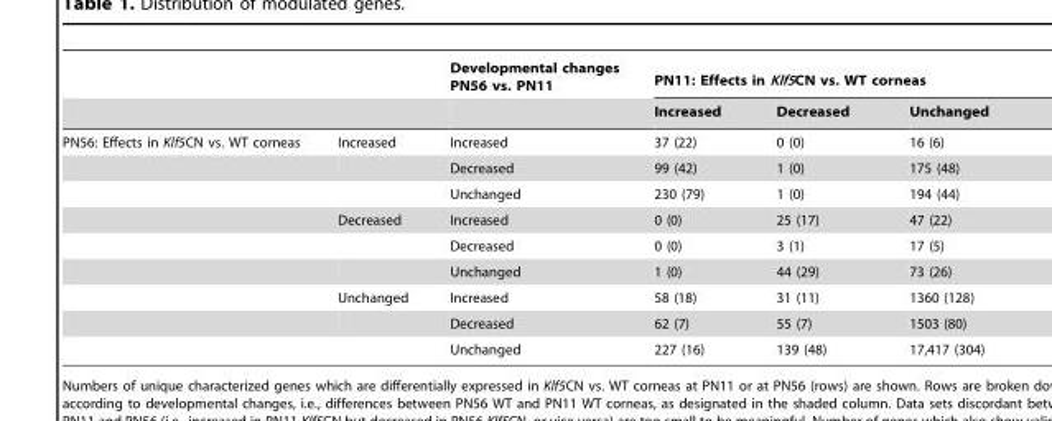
<table><thead><tr><td rowspan="2"></td><td rowspan="2"></td><td rowspan="2">Developmental changes PN56 vs. PN11</td><td colspan="3">PN11: Effects in Klf5CN vs. WT corneas</td></tr><tr><td>Increased</td><td>Decreased</td><td>Unchanged</td></tr></thead><tbody><tr><td rowspan="9">PN56: Effects in Klf5CN vs. WT corneas</td><td>Increased</td><td>Increased</td><td>37 (22)</td><td>0 (0)</td><td>16 (6)</td></tr><tr><td></td><td>Decreased</td><td>99 (42)</td><td>1 (0)</td><td>175 (48)</td></tr><tr><td></td><td>Unchanged</td><td>230 (79)</td><td>1 (0)</td><td>194 (44)</td></tr><tr><td>Decreased</td><td>Increased</td><td>0 (0)</td><td>25 (17)</td><td>47 (22)</td></tr><tr><td></td><td>Decreased</td><td>0 (0)</td><td>3 (1)</td><td>17 (5)</td></tr><tr><td></td><td>Unchanged</td><td>1 (0)</td><td>44 (29)</td><td>73 (26)</td></tr><tr><td>Unchanged</td><td>Increased</td><td>58 (18)</td><td>31 (11)</td><td>1360 (128)</td></tr><tr><td></td><td>Decreased</td><td>62 (7)</td><td>55 (7)</td><td>1503 (80)</td></tr><tr><td></td><td>Unchanged</td><td>227 (16)</td><td>139 (48)</td><td>17,417 (304)</td></tr></tbody></table>